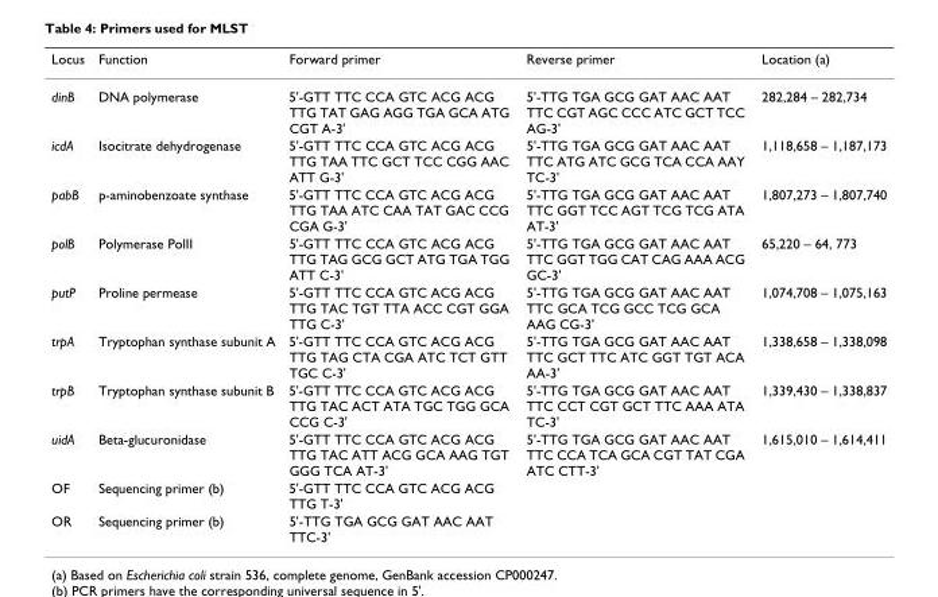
<table><thead><tr><td>Locus</td><td>Function</td><td>Forward primer</td><td>Reverse primer</td><td>Location (a)</td></tr></thead><tbody><tr><td>dinB</td><td>DNA polymerase</td><td>5&#x27;-GTT TTC CCA GTC ACG ACG TTG TAT GAG AGG TGA GCA ATG CGT A-3&#x27;</td><td>5&#x27;-TTG TGA GCG GAT AAC AAT TTC CGT AGC CCC ATC GCT TCC AG-3&#x27;</td><td>282,284 – 282,734</td></tr><tr><td>icdA</td><td>Isocitrate dehydrogenase</td><td>5&#x27;-GTT TTC CCA GTC ACG ACG TTG TAA TTC GCT TCC CGG AAC ATT G-3&#x27;</td><td>5&#x27;-TTG TGA GCG GAT AAC AAT TTC ATG ATC GCG TCA CCA AAY TC-3&#x27;</td><td>1,118,658 – 1,187,173</td></tr><tr><td>pabB</td><td>p-aminobenzoate synthase</td><td>5&#x27;-GTT TTC CCA GTC ACG ACG TTG TAA ATC CAA TAT GAC CCG CGA G-3&#x27;</td><td>5&#x27;-TTG TGA GCG GAT AAC AAT TTC GGT TCC AGT TCG TCG ATA AT-3&#x27;</td><td>1,807,273 – 1,807,740</td></tr><tr><td>polB</td><td>Polymerase PolII</td><td>5&#x27;-GTT TTC CCA GTC ACG ACG TTG TAG GCG GCT ATG TGA TGG ATT C-3&#x27;</td><td>5&#x27;-TTG TGA GCG GAT AAC AAT TTC GGT TGG CAT CAG AAA ACG GC-3&#x27;</td><td>65,220 – 64, 773</td></tr><tr><td>putP</td><td>Proline permease</td><td>5&#x27;-GTT TTC CCA GTC ACG ACG TTG TAC TGT TTA ACC CGT GGA TTG C-3&#x27;</td><td>5&#x27;-TTG TGA GCG GAT AAC AAT TTC GCA TCG GCC TCG GCA AAG CG-3&#x27;</td><td>1,074,708 – 1,075,163</td></tr><tr><td>trpA</td><td>Tryptophan synthase subunit A</td><td>5&#x27;-GTT TTC CCA GTC ACG ACG TTG TAG CTA CGA ATC TCT GTT TGC C-3&#x27;</td><td>5&#x27;-TTG TGA GCG GAT AAC AAT TTC GCT TTC ATC GGT TGT ACA AA-3&#x27;</td><td>1,338,658 – 1,338,098</td></tr><tr><td>trpB</td><td>Tryptophan synthase subunit B</td><td>5&#x27;-GTT TTC CCA GTC ACG ACG TTG TAC ACT ATA TGC TGG GCA CCG C-3&#x27;</td><td>5&#x27;-TTG TGA GCG GAT AAC AAT TTC CCT CGT GCT TTC AAA ATA TC-3&#x27;</td><td>1,339,430 – 1,338,837</td></tr><tr><td>uidA</td><td>Beta-glucuronidase</td><td>5&#x27;-GTT TTC CCA GTC ACG ACG TTG TAC ATT ACG GCA AAG TGT GGG TCA AT-3&#x27;</td><td>5&#x27;-TTG TGA GCG GAT AAC AAT TTC CCA TCA GCA CGT TAT CGA ATC CTT-3&#x27;</td><td>1,615,010 – 1,614,411</td></tr><tr><td>OF</td><td>Sequencing primer (b)</td><td>5&#x27;-GTT TTC CCA GTC ACG ACG TTG T-3&#x27;</td><td></td><td></td></tr><tr><td>OR</td><td>Sequencing primer (b)</td><td>5&#x27;-TTG TGA GCG GAT AAC AAT TTC-3&#x27;</td><td></td><td></td></tr></tbody></table>